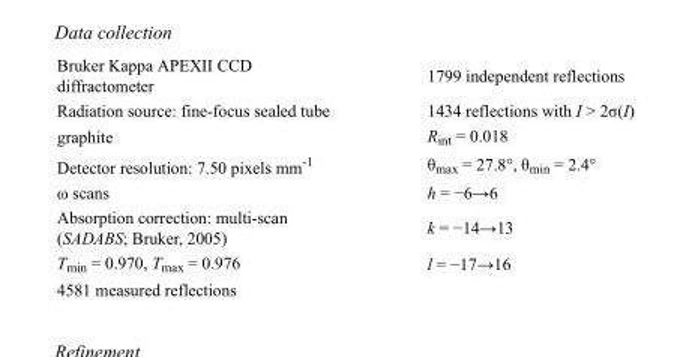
<table><tbody><tr><td>Bruker Kappa APEXII CCD diffractometer</td><td>1799 independent reflections</td></tr><tr><td>Radiation source: fine-focus sealed tube</td><td>1434 reflections with I &gt; 2σ(I)</td></tr><tr><td>graphite</td><td>R<sub>int</sub> = 0.018</td></tr><tr><td>Detector resolution: 7.50 pixels mm<sup>-1</sup></td><td>θ<sub>max</sub> = 27.8°, θ<sub>min</sub> = 2.4°</td></tr><tr><td>ω scans</td><td>h = −6→6</td></tr><tr><td>Absorption correction: multi-scan (SADABS; Bruker, 2005)</td><td>k = −14→13</td></tr><tr><td>T<sub>min</sub> = 0.970, T<sub>max</sub> = 0.976</td><td>l = −17→16</td></tr><tr><td>4581 measured reflections</td><td></td></tr></tbody></table>